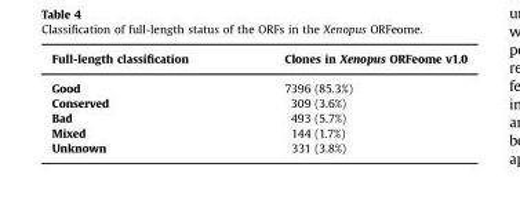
<table><thead><tr><td>Full-length classification</td><td>Clones in Xenopus ORFeome v1.0</td></tr></thead><tbody><tr><td>Good</td><td>7396 (85.3%)</td></tr><tr><td>Conserved</td><td>309 (3.6%)</td></tr><tr><td>Bad</td><td>493 (5.7%)</td></tr><tr><td>Mixed</td><td>144 (1.7%)</td></tr><tr><td>Unknown</td><td>331 (3.8%)</td></tr></tbody></table>